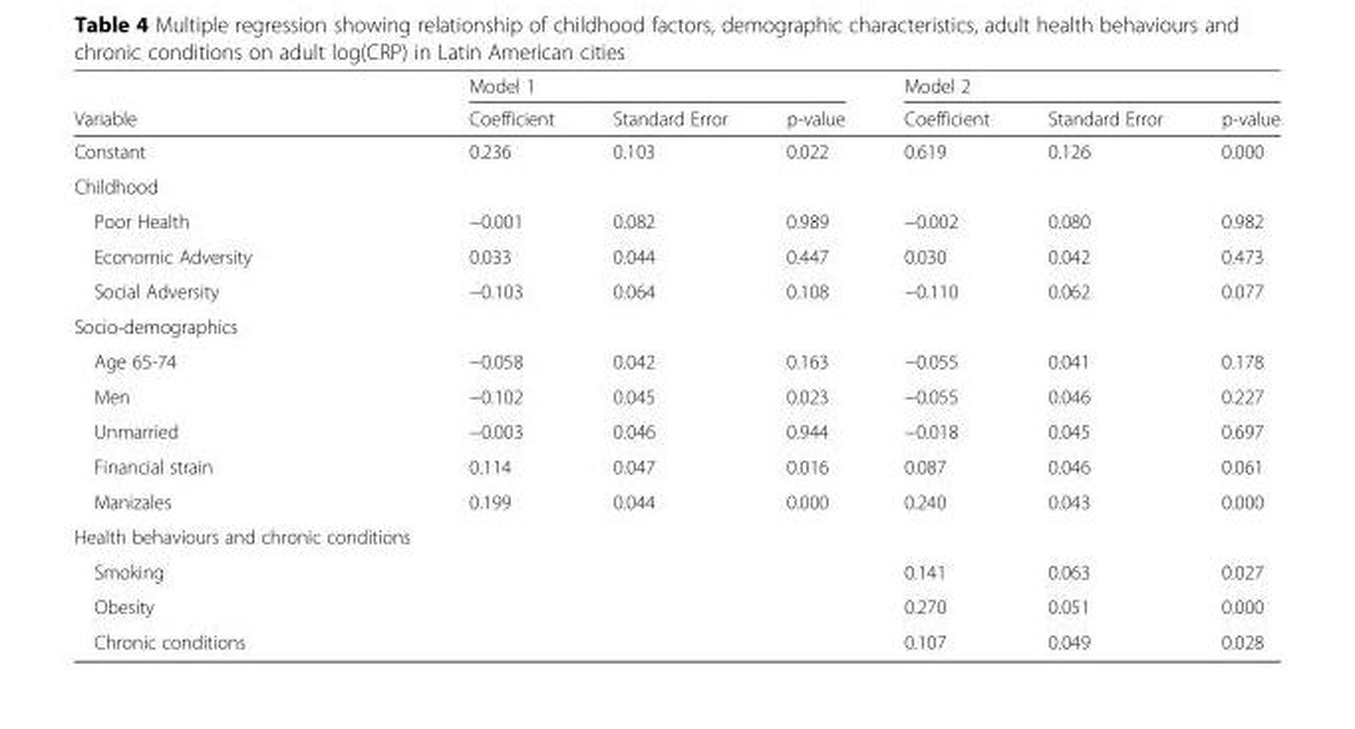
<table><thead><tr><td rowspan="2">Variable</td><td colspan="3">Model 1</td><td colspan="3">Model 2</td></tr><tr><td>Coefficient</td><td>Standard Error</td><td>p-value</td><td>Coefficient</td><td>Standard Error</td><td>p-value</td></tr></thead><tbody><tr><td>Constant</td><td>0.236</td><td>0.103</td><td>0.022</td><td>0.619</td><td>0.126</td><td>0.000</td></tr><tr><td colspan="7">Childhood</td></tr><tr><td>Poor Health</td><td>−0.001</td><td>0.082</td><td>0.989</td><td>−0.002</td><td>0.080</td><td>0.982</td></tr><tr><td>Economic Adversity</td><td>0.033</td><td>0.044</td><td>0.447</td><td>0.030</td><td>0.042</td><td>0.473</td></tr><tr><td>Social Adversity</td><td>−0.103</td><td>0.064</td><td>0.108</td><td>−0.110</td><td>0.062</td><td>0.077</td></tr><tr><td colspan="7">Socio-demographics</td></tr><tr><td>Age 65-74</td><td>−0.058</td><td>0.042</td><td>0.163</td><td>−0.055</td><td>0.041</td><td>0.178</td></tr><tr><td>Men</td><td>−0.102</td><td>0.045</td><td>0.023</td><td>−0.055</td><td>0.046</td><td>0.227</td></tr><tr><td>Unmarried</td><td>−0.003</td><td>0.046</td><td>0.944</td><td>−0.018</td><td>0.045</td><td>0.697</td></tr><tr><td>Financial strain</td><td>0.114</td><td>0.047</td><td>0.016</td><td>0.087</td><td>0.046</td><td>0.061</td></tr><tr><td>Manizales</td><td>0.199</td><td>0.044</td><td>0.000</td><td>0.240</td><td>0.043</td><td>0.000</td></tr><tr><td colspan="7">Health behaviours and chronic conditions</td></tr><tr><td>Smoking</td><td></td><td></td><td></td><td>0.141</td><td>0.063</td><td>0.027</td></tr><tr><td>Obesity</td><td></td><td></td><td></td><td>0.270</td><td>0.051</td><td>0.000</td></tr><tr><td>Chronic conditions</td><td></td><td></td><td></td><td>0.107</td><td>0.049</td><td>0.028</td></tr></tbody></table>